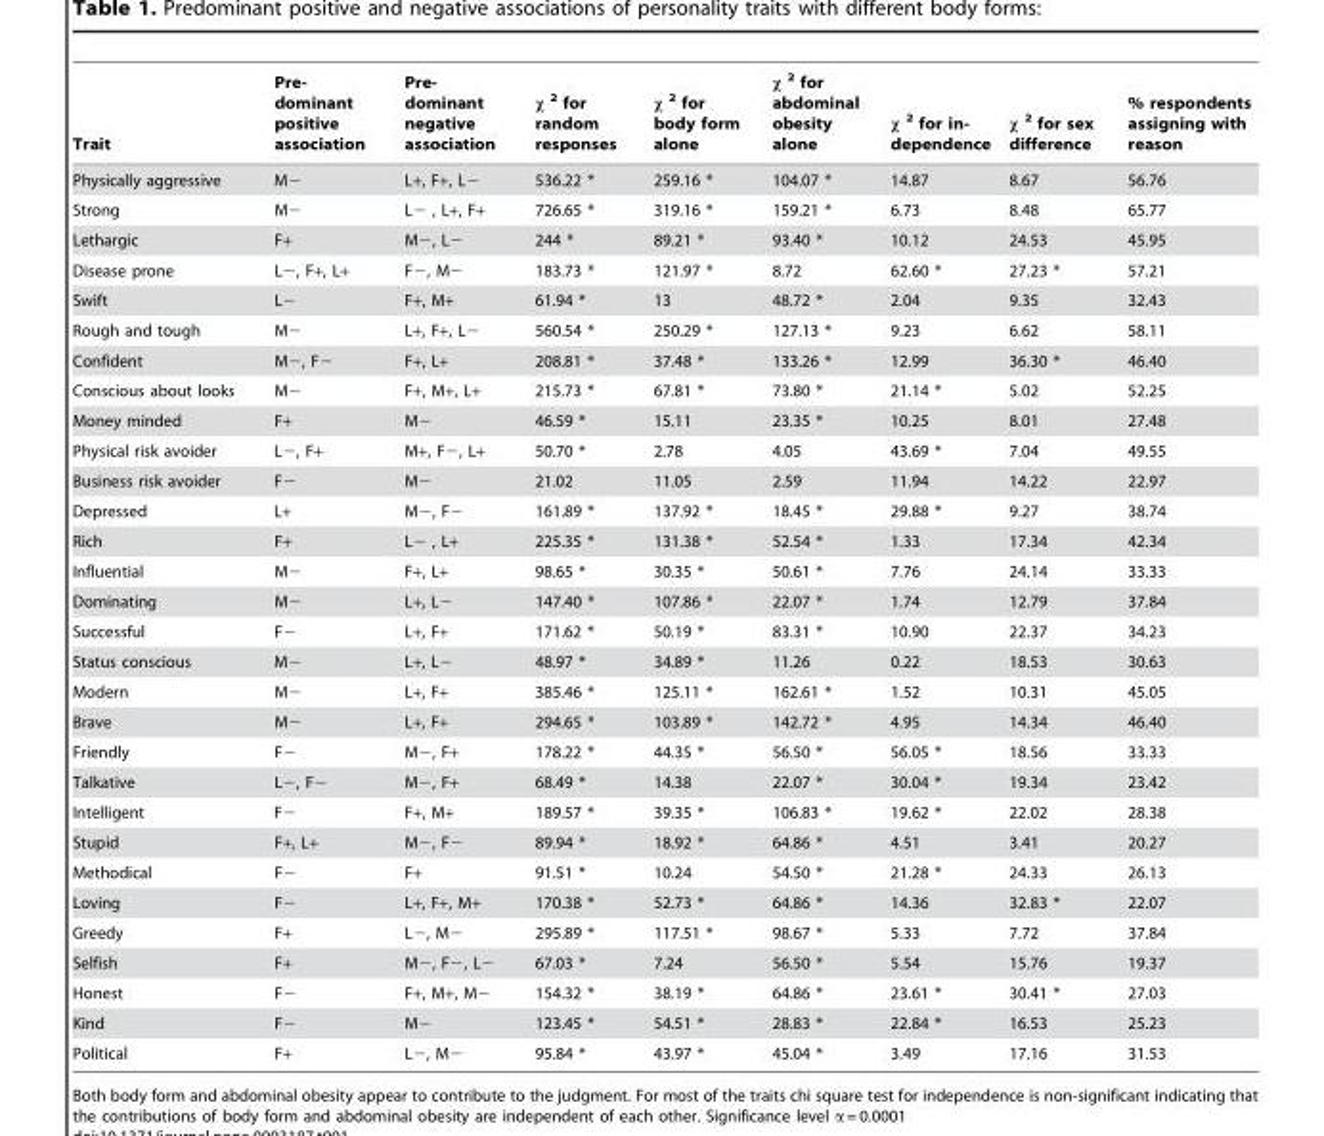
<table><thead><tr><td>Trait</td><td>Pre- dominant positive association</td><td>Pre- dominant negative association</td><td>χ <sup>2</sup> for random responses</td><td>χ <sup>2</sup> for body form alone</td><td>χ <sup>2</sup> for abdominal obesity alone</td><td>χ <sup>2</sup> for in- dependence</td><td>χ <sup>2</sup> for sex difference</td><td>% respondents assigning with reason</td></tr></thead><tbody><tr><td>Physically aggressive</td><td>M−</td><td>L+, F+, L−</td><td>536.22 *</td><td>259.16 *</td><td>104.07 *</td><td>14.87</td><td>8.67</td><td>56.76</td></tr><tr><td>Strong</td><td>M−</td><td>L− , L+, F+</td><td>726.65 *</td><td>319.16 *</td><td>159.21 *</td><td>6.73</td><td>8.48</td><td>65.77</td></tr><tr><td>Lethargic</td><td>F+</td><td>M−, L−</td><td>244 *</td><td>89.21 *</td><td>93.40 *</td><td>10.12</td><td>24.53</td><td>45.95</td></tr><tr><td>Disease prone</td><td>L−, F+, L+</td><td>F−, M−</td><td>183.73 *</td><td>121.97 *</td><td>8.72</td><td>62.60 *</td><td>27.23 *</td><td>57.21</td></tr><tr><td>Swift</td><td>L−</td><td>F+, M+</td><td>61.94 *</td><td>13</td><td>48.72 *</td><td>2.04</td><td>9.35</td><td>32.43</td></tr><tr><td>Rough and tough</td><td>M−</td><td>L+, F+, L−</td><td>560.54 *</td><td>250.29 *</td><td>127.13 *</td><td>9.23</td><td>6.62</td><td>58.11</td></tr><tr><td>Confident</td><td>M−, F−</td><td>F+, L+</td><td>208.81 *</td><td>37.48 *</td><td>133.26 *</td><td>12.99</td><td>36.30 *</td><td>46.40</td></tr><tr><td>Conscious about looks</td><td>M−</td><td>F+, M+, L+</td><td>215.73 *</td><td>67.81 *</td><td>73.80 *</td><td>21.14 *</td><td>5.02</td><td>52.25</td></tr><tr><td>Money minded</td><td>F+</td><td>M−</td><td>46.59 *</td><td>15.11</td><td>23.35 *</td><td>10.25</td><td>8.01</td><td>27.48</td></tr><tr><td>Physical risk avoider</td><td>L−, F+</td><td>M+, F−, L+</td><td>50.70 *</td><td>2.78</td><td>4.05</td><td>43.69 *</td><td>7.04</td><td>49.55</td></tr><tr><td>Business risk avoider</td><td>F−</td><td>M−</td><td>21.02</td><td>11.05</td><td>2.59</td><td>11.94</td><td>14.22</td><td>22.97</td></tr><tr><td>Depressed</td><td>L+</td><td>M−, F−</td><td>161.89 *</td><td>137.92 *</td><td>18.45 *</td><td>29.88 *</td><td>9.27</td><td>38.74</td></tr><tr><td>Rich</td><td>F+</td><td>L− , L+</td><td>225.35 *</td><td>131.38 *</td><td>52.54 *</td><td>1.33</td><td>17.34</td><td>42.34</td></tr><tr><td>Influential</td><td>M−</td><td>F+, L+</td><td>98.65 *</td><td>30.35 *</td><td>50.61 *</td><td>7.76</td><td>24.14</td><td>33.33</td></tr><tr><td>Dominating</td><td>M−</td><td>L+, L−</td><td>147.40 *</td><td>107.86 *</td><td>22.07 *</td><td>1.74</td><td>12.79</td><td>37.84</td></tr><tr><td>Successful</td><td>F−</td><td>L+, F+</td><td>171.62 *</td><td>50.19 *</td><td>83.31 *</td><td>10.90</td><td>22.37</td><td>34.23</td></tr><tr><td>Status conscious</td><td>M−</td><td>L+, L−</td><td>48.97 *</td><td>34.89 *</td><td>11.26</td><td>0.22</td><td>18.53</td><td>30.63</td></tr><tr><td>Modern</td><td>M−</td><td>L+, F+</td><td>385.46 *</td><td>125.11 *</td><td>162.61 *</td><td>1.52</td><td>10.31</td><td>45.05</td></tr><tr><td>Brave</td><td>M−</td><td>L+, F+</td><td>294.65 *</td><td>103.89 *</td><td>142.72 *</td><td>4.95</td><td>14.34</td><td>46.40</td></tr><tr><td>Friendly</td><td>F−</td><td>M−, F+</td><td>178.22 *</td><td>44.35 *</td><td>56.50 *</td><td>56.05 *</td><td>18.56</td><td>33.33</td></tr><tr><td>Talkative</td><td>L−, F−</td><td>M−, F+</td><td>68.49 *</td><td>14.38</td><td>22.07 *</td><td>30.04 *</td><td>19.34</td><td>23.42</td></tr><tr><td>Intelligent</td><td>F−</td><td>F+, M+</td><td>189.57 *</td><td>39.35 *</td><td>106.83 *</td><td>19.62 *</td><td>22.02</td><td>28.38</td></tr><tr><td>Stupid</td><td>F+, L+</td><td>M−, F−</td><td>89.94 *</td><td>18.92 *</td><td>64.86 *</td><td>4.51</td><td>3.41</td><td>20.27</td></tr><tr><td>Methodical</td><td>F−</td><td>F+</td><td>91.51 *</td><td>10.24</td><td>54.50 *</td><td>21.28 *</td><td>24.33</td><td>26.13</td></tr><tr><td>Loving</td><td>F−</td><td>L+, F+, M+</td><td>170.38 *</td><td>52.73 *</td><td>64.86 *</td><td>14.36</td><td>32.83 *</td><td>22.07</td></tr><tr><td>Greedy</td><td>F+</td><td>L−, M−</td><td>295.89 *</td><td>117.51 *</td><td>98.67 *</td><td>5.33</td><td>7.72</td><td>37.84</td></tr><tr><td>Selfish</td><td>F+</td><td>M−, F−, L−</td><td>67.03 *</td><td>7.24</td><td>56.50 *</td><td>5.54</td><td>15.76</td><td>19.37</td></tr><tr><td>Honest</td><td>F−</td><td>F+, M+, M−</td><td>154.32 *</td><td>38.19 *</td><td>64.86 *</td><td>23.61 *</td><td>30.41 *</td><td>27.03</td></tr><tr><td>Kind</td><td>F−</td><td>M−</td><td>123.45 *</td><td>54.51 *</td><td>28.83 *</td><td>22.84 *</td><td>16.53</td><td>25.23</td></tr><tr><td>Political</td><td>F+</td><td>L−, M−</td><td>95.84 *</td><td>43.97 *</td><td>45.04 *</td><td>3.49</td><td>17.16</td><td>31.53</td></tr></tbody></table>